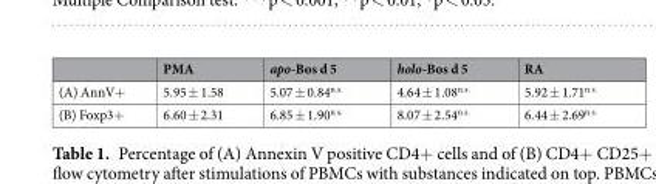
<table><thead><tr><td></td><td>PMA</td><td>apo-Bos d 5</td><td>holo-Bos d 5</td><td>RA</td></tr></thead><tbody><tr><td>(A) AnnV+</td><td>5.95 ± 1.58</td><td>5.07 ± 0.84<sup>n.s.</sup></td><td>4.64 ± 1.08<sup>n.s.</sup></td><td>5.92 ± 1.71<sup>n.s.</sup></td></tr><tr><td>(B) Foxp3+</td><td>6.60 ± 2.31</td><td>6.85 ± 1.90<sup>n.s.</sup></td><td>8.07 ± 2.54<sup>n.s.</sup></td><td>6.44 ± 2.69<sup>n.s.</sup></td></tr></tbody></table>